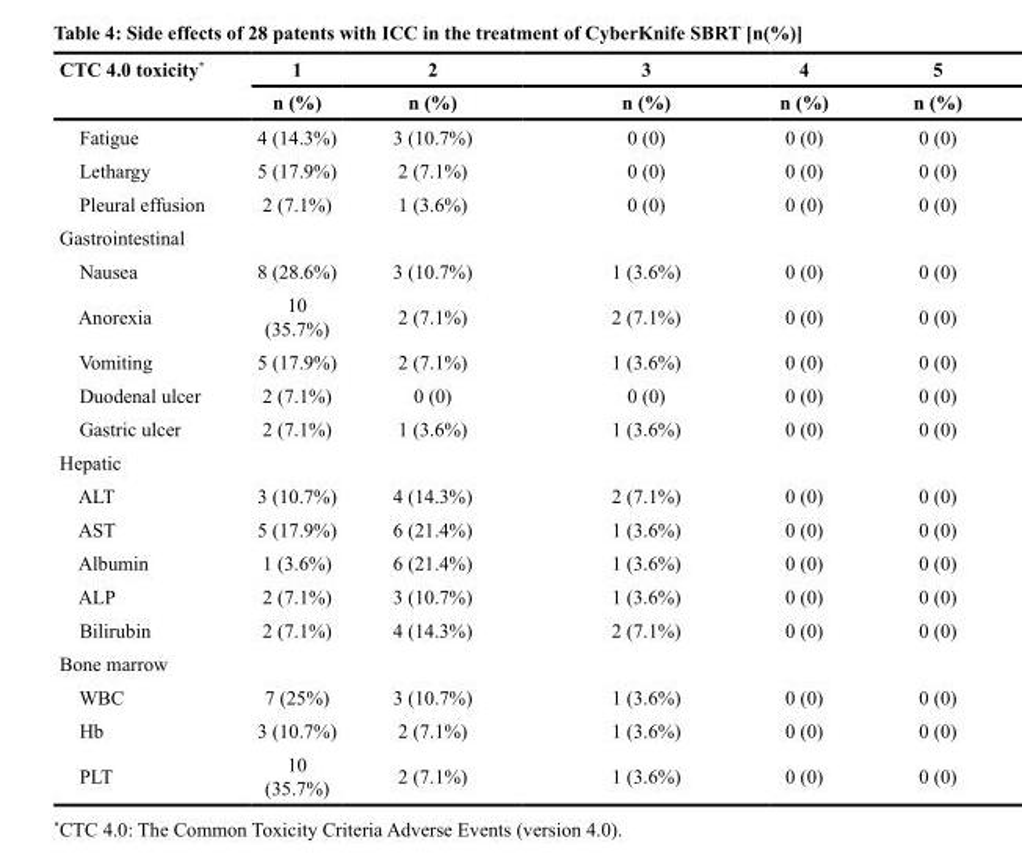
<table><thead><tr><td rowspan="2">CTC 4.0 toxicity*</td><td rowspan="2">1 n (%)</td><td rowspan="2">2 n (%)</td><td rowspan="2">3 n (%)</td><td rowspan="2">4 n (%)</td><td rowspan="2">5 n (%)</td></tr><tr></tr></thead><tbody><tr><td>Fatigue</td><td>4 (14.3%)</td><td>3 (10.7%)</td><td>0 (0)</td><td>0 (0)</td><td>0 (0)</td></tr><tr><td>Lethargy</td><td>5 (17.9%)</td><td>2 (7.1%)</td><td>0 (0)</td><td>0 (0)</td><td>0 (0)</td></tr><tr><td>Pleural effusion</td><td>2 (7.1%)</td><td>1 (3.6%)</td><td>0 (0)</td><td>0 (0)</td><td>0 (0)</td></tr><tr><td colspan="6">Gastrointestinal</td></tr><tr><td>Nausea</td><td>8 (28.6%)</td><td>3 (10.7%)</td><td>1 (3.6%)</td><td>0 (0)</td><td>0 (0)</td></tr><tr><td>Anorexia</td><td>10 (35.7%)</td><td>2 (7.1%)</td><td>2 (7.1%)</td><td>0 (0)</td><td>0 (0)</td></tr><tr><td>Vomiting</td><td>5 (17.9%)</td><td>2 (7.1%)</td><td>1 (3.6%)</td><td>0 (0)</td><td>0 (0)</td></tr><tr><td>Duodenal ulcer</td><td>2 (7.1%)</td><td>0 (0)</td><td>0 (0)</td><td>0 (0)</td><td>0 (0)</td></tr><tr><td>Gastric ulcer</td><td>2 (7.1%)</td><td>1 (3.6%)</td><td>1 (3.6%)</td><td>0 (0)</td><td>0 (0)</td></tr><tr><td colspan="6">Hepatic</td></tr><tr><td>ALT</td><td>3 (10.7%)</td><td>4 (14.3%)</td><td>2 (7.1%)</td><td>0 (0)</td><td>0 (0)</td></tr><tr><td>AST</td><td>5 (17.9%)</td><td>6 (21.4%)</td><td>1 (3.6%)</td><td>0 (0)</td><td>0 (0)</td></tr><tr><td>Albumin</td><td>1 (3.6%)</td><td>6 (21.4%)</td><td>1 (3.6%)</td><td>0 (0)</td><td>0 (0)</td></tr><tr><td>ALP</td><td>2 (7.1%)</td><td>3 (10.7%)</td><td>1 (3.6%)</td><td>0 (0)</td><td>0 (0)</td></tr><tr><td>Bilirubin</td><td>2 (7.1%)</td><td>4 (14.3%)</td><td>2 (7.1%)</td><td>0 (0)</td><td>0 (0)</td></tr><tr><td colspan="6">Bone marrow</td></tr><tr><td>WBC</td><td>7 (25%)</td><td>3 (10.7%)</td><td>1 (3.6%)</td><td>0 (0)</td><td>0 (0)</td></tr><tr><td>Hb</td><td>3 (10.7%)</td><td>2 (7.1%)</td><td>1 (3.6%)</td><td>0 (0)</td><td>0 (0)</td></tr><tr><td>PLT</td><td>10 (35.7%)</td><td>2 (7.1%)</td><td>1 (3.6%)</td><td>0 (0)</td><td>0 (0)</td></tr></tbody></table>